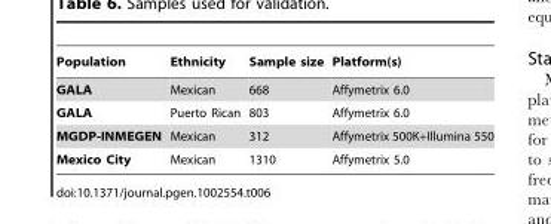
<table><thead><tr><td>Population</td><td>Ethnicity</td><td>Sample size</td><td>Platform(s)</td></tr></thead><tbody><tr><td>GALA</td><td>Mexican</td><td>668</td><td>Affymetrix 6.0</td></tr><tr><td>GALA</td><td>Puerto Rican</td><td>803</td><td>Affymetrix 6.0</td></tr><tr><td>MGDP-INMEGEN</td><td>Mexican</td><td>312</td><td>Affymetrix 500K+Illumina 550</td></tr><tr><td>Mexico City</td><td>Mexican</td><td>1310</td><td>Affymetrix 5.0</td></tr></tbody></table>